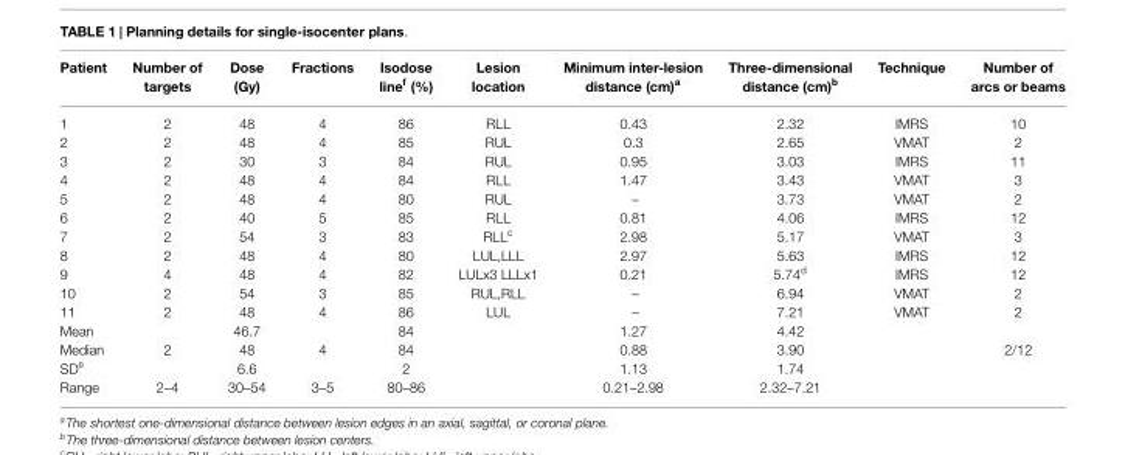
<table><thead><tr><td>Patient</td><td>Number of targets</td><td>Dose (Gy)</td><td>Fractions</td><td>Isodose line<sup>f</sup> (%)</td><td>Lesion location</td><td>Minimum inter-lesion distance (cm)<sup>a</sup></td><td>Three-dimensional distance (cm)<sup>b</sup></td><td>Technique</td><td>Number of arcs or beams</td></tr></thead><tbody><tr><td>1</td><td>2</td><td>48</td><td>4</td><td>86</td><td>RLL</td><td>0.43</td><td>2.32</td><td>IMRS</td><td>10</td></tr><tr><td>2</td><td>2</td><td>48</td><td>4</td><td>85</td><td>RUL</td><td>0.3</td><td>2.65</td><td>VMAT</td><td>2</td></tr><tr><td>3</td><td>2</td><td>30</td><td>3</td><td>84</td><td>RUL</td><td>0.95</td><td>3.03</td><td>IMRS</td><td>11</td></tr><tr><td>4</td><td>2</td><td>48</td><td>4</td><td>84</td><td>RLL</td><td>1.47</td><td>3.43</td><td>VMAT</td><td>3</td></tr><tr><td>5</td><td>2</td><td>48</td><td>4</td><td>80</td><td>RUL</td><td>–</td><td>3.73</td><td>VMAT</td><td>2</td></tr><tr><td>6</td><td>2</td><td>40</td><td>5</td><td>85</td><td>RLL</td><td>0.81</td><td>4.06</td><td>IMRS</td><td>12</td></tr><tr><td>7</td><td>2</td><td>54</td><td>3</td><td>83</td><td>RLL<sup>c</sup></td><td>2.98</td><td>5.17</td><td>VMAT</td><td>3</td></tr><tr><td>8</td><td>2</td><td>48</td><td>4</td><td>80</td><td>LUL,LLL</td><td>2.97</td><td>5.63</td><td>IMRS</td><td>12</td></tr><tr><td>9</td><td>4</td><td>48</td><td>4</td><td>82</td><td>LULx3 LLLx1</td><td>0.21</td><td>5.74<sup>d</sup></td><td>IMRS</td><td>12</td></tr><tr><td>10</td><td>2</td><td>54</td><td>3</td><td>85</td><td>RUL,RLL</td><td>–</td><td>6.94</td><td>VMAT</td><td>2</td></tr><tr><td>11</td><td>2</td><td>48</td><td>4</td><td>86</td><td>LUL</td><td>–</td><td>7.21</td><td>VMAT</td><td>2</td></tr><tr><td>Mean</td><td></td><td>46.7</td><td></td><td>84</td><td></td><td>1.27</td><td>4.42</td><td></td><td></td></tr><tr><td>Median</td><td>2</td><td>48</td><td>4</td><td>84</td><td></td><td>0.88</td><td>3.90</td><td></td><td>2/12</td></tr><tr><td>SD<sup>e</sup></td><td></td><td>6.6</td><td></td><td>2</td><td></td><td>1.13</td><td>1.74</td><td></td><td></td></tr><tr><td>Range</td><td>2–4</td><td>30–54</td><td>3–5</td><td>80–86</td><td></td><td>0.21–2.98</td><td>2.32–7.21</td><td></td><td></td></tr></tbody></table>